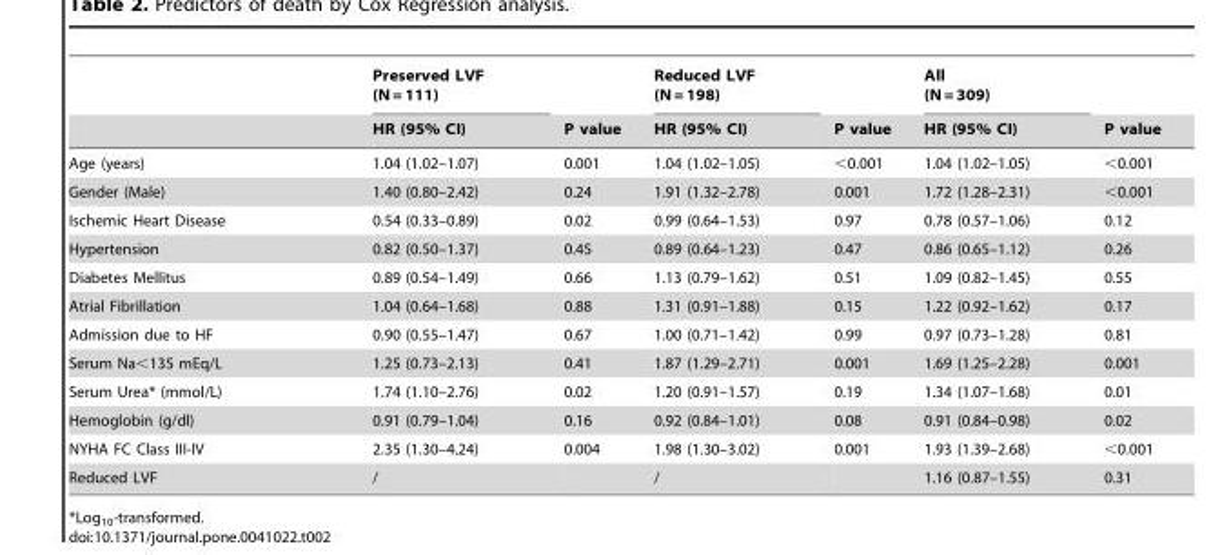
<table><thead><tr><td rowspan="2"></td><td rowspan="2">Preserved LVF (N = 111) HR (95% CI)</td><td rowspan="2">P value</td><td rowspan="2">Reduced LVF (N = 198) HR (95% CI)</td><td rowspan="2">P value</td><td rowspan="2">All (N = 309) HR (95% CI)</td><td rowspan="2">P value</td></tr><tr></tr></thead><tbody><tr><td>Age (years)</td><td>1.04 (1.02–1.07)</td><td>0.001</td><td>1.04 (1.02–1.05)</td><td>&lt;0.001</td><td>1.04 (1.02–1.05)</td><td>&lt;0.001</td></tr><tr><td>Gender (Male)</td><td>1.40 (0.80–2.42)</td><td>0.24</td><td>1.91 (1.32–2.78)</td><td>0.001</td><td>1.72 (1.28–2.31)</td><td>&lt;0.001</td></tr><tr><td>Ischemic Heart Disease</td><td>0.54 (0.33–0.89)</td><td>0.02</td><td>0.99 (0.64–1.53)</td><td>0.97</td><td>0.78 (0.57–1.06)</td><td>0.12</td></tr><tr><td>Hypertension</td><td>0.82 (0.50–1.37)</td><td>0.45</td><td>0.89 (0.64–1.23)</td><td>0.47</td><td>0.86 (0.65–1.12)</td><td>0.26</td></tr><tr><td>Diabetes Mellitus</td><td>0.89 (0.54–1.49)</td><td>0.66</td><td>1.13 (0.79–1.62)</td><td>0.51</td><td>1.09 (0.82–1.45)</td><td>0.55</td></tr><tr><td>Atrial Fibrillation</td><td>1.04 (0.64–1.68)</td><td>0.88</td><td>1.31 (0.91–1.88)</td><td>0.15</td><td>1.22 (0.92–1.62)</td><td>0.17</td></tr><tr><td>Admission due to HF</td><td>0.90 (0.55–1.47)</td><td>0.67</td><td>1.00 (0.71–1.42)</td><td>0.99</td><td>0.97 (0.73–1.28)</td><td>0.81</td></tr><tr><td>Serum Na&lt;135 mEq/L</td><td>1.25 (0.73–2.13)</td><td>0.41</td><td>1.87 (1.29–2.71)</td><td>0.001</td><td>1.69 (1.25–2.28)</td><td>0.001</td></tr><tr><td>Serum Urea* (mmol/L)</td><td>1.74 (1.10–2.76)</td><td>0.02</td><td>1.20 (0.91–1.57)</td><td>0.19</td><td>1.34 (1.07–1.68)</td><td>0.01</td></tr><tr><td>Hemoglobin (g/dl)</td><td>0.91 (0.79–1.04)</td><td>0.16</td><td>0.92 (0.84–1.01)</td><td>0.08</td><td>0.91 (0.84–0.98)</td><td>0.02</td></tr><tr><td>NYHA FC Class III-IV</td><td>2.35 (1.30–4.24)</td><td>0.004</td><td>1.98 (1.30–3.02)</td><td>0.001</td><td>1.93 (1.39–2.68)</td><td>&lt;0.001</td></tr><tr><td>Reduced LVF</td><td>/</td><td></td><td>/</td><td></td><td>1.16 (0.87–1.55)</td><td>0.31</td></tr></tbody></table>